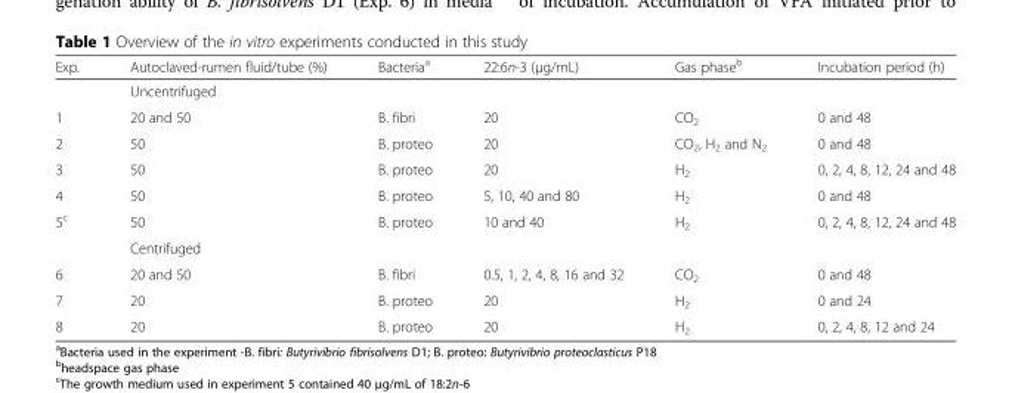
<table><thead><tr><td>Exp.</td><td>Autoclaved-rumen fluid/tube (%)</td><td>Bacteria<sup>a</sup></td><td>22:6n-3 (μg/mL)</td><td>Gas phase<sup>b</sup></td><td>Incubation period (h)</td></tr></thead><tbody><tr><td></td><td colspan="5">Uncentrifuged</td></tr><tr><td>1</td><td>20 and 50</td><td>B. fibri</td><td>20</td><td>CO<sub>2</sub></td><td>0 and 48</td></tr><tr><td>2</td><td>50</td><td>B. proteo</td><td>20</td><td>CO<sub>2</sub>, H<sub>2</sub> and N<sub>2</sub></td><td>0 and 48</td></tr><tr><td>3</td><td>50</td><td>B. proteo</td><td>20</td><td>H<sub>2</sub></td><td>0, 2, 4, 8, 12, 24 and 48</td></tr><tr><td>4</td><td>50</td><td>B. proteo</td><td>5, 10, 40 and 80</td><td>H<sub>2</sub></td><td>0 and 48</td></tr><tr><td rowspan="2">5<sup>c</sup></td><td>50</td><td>B. proteo</td><td>10 and 40</td><td>H<sub>2</sub></td><td>0, 2, 4, 8, 12, 24 and 48</td></tr><tr><td colspan="5">Centrifuged</td></tr><tr><td>6</td><td>20 and 50</td><td>B. fibri</td><td>0.5, 1, 2, 4, 8, 16 and 32</td><td>CO<sub>2</sub></td><td>0 and 48</td></tr><tr><td>7</td><td>20</td><td>B. proteo</td><td>20</td><td>H<sub>2</sub></td><td>0 and 24</td></tr><tr><td>8</td><td>20</td><td>B. proteo</td><td>20</td><td>H<sub>2</sub></td><td>0, 2, 4, 8, 12 and 24</td></tr></tbody></table>